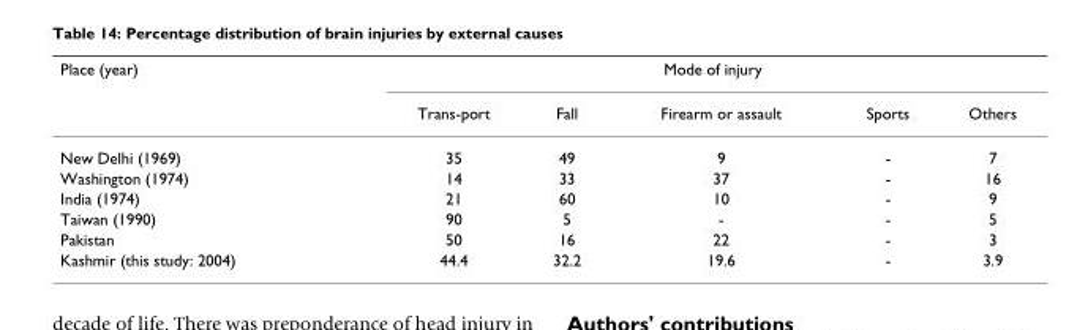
<table><thead><tr><td rowspan="2">Place (year)</td><td colspan="5">Mode of injury</td></tr><tr><td>Trans-port</td><td>Fall</td><td>Firearm or assault</td><td>Sports</td><td>Others</td></tr></thead><tbody><tr><td>New Delhi (1969)</td><td>35</td><td>49</td><td>9</td><td>-</td><td>7</td></tr><tr><td>Washington (1974)</td><td>14</td><td>33</td><td>37</td><td>-</td><td>16</td></tr><tr><td>India (1974)</td><td>21</td><td>60</td><td>10</td><td>-</td><td>9</td></tr><tr><td>Taiwan (1990)</td><td>90</td><td>5</td><td>-</td><td>-</td><td>5</td></tr><tr><td>Pakistan</td><td>50</td><td>16</td><td>22</td><td>-</td><td>3</td></tr><tr><td>Kashmir (this study: 2004)</td><td>44.4</td><td>32.2</td><td>19.6</td><td>-</td><td>3.9</td></tr></tbody></table>